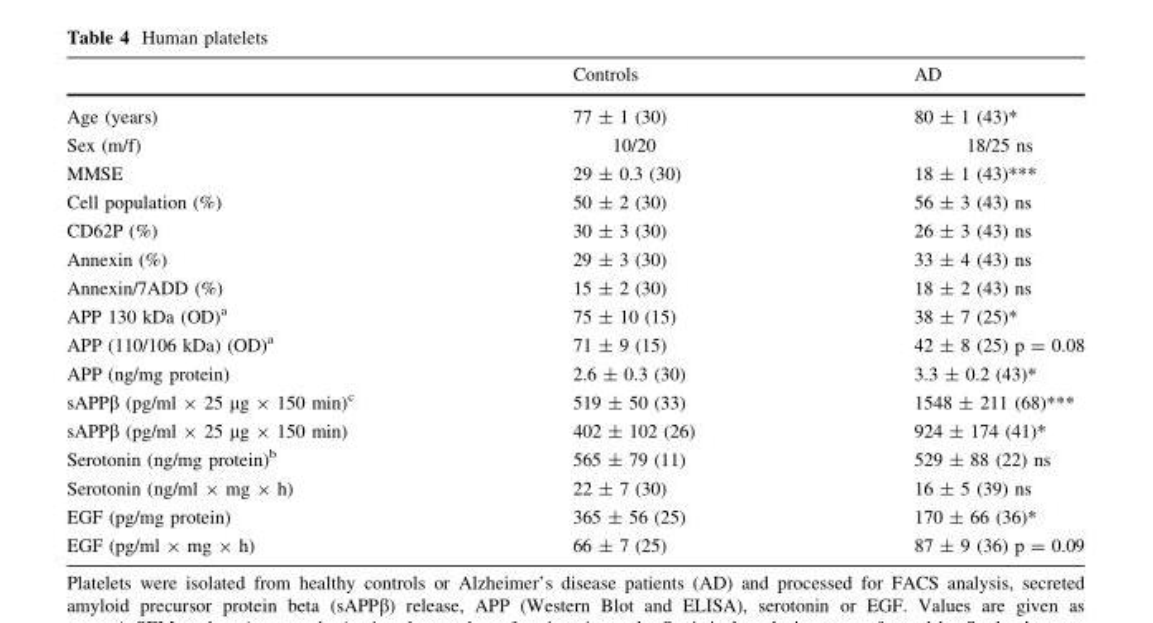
<table><thead><tr><td></td><td>Controls</td><td>AD</td></tr></thead><tbody><tr><td>Age (years)</td><td>77 ± 1 (30)</td><td>80 ± 1 (43)*</td></tr><tr><td>Sex (m/f)</td><td>10/20</td><td>18/25 ns</td></tr><tr><td>MMSE</td><td>29 ± 0.3 (30)</td><td>18 ± 1 (43)***</td></tr><tr><td>Cell population (%)</td><td>50 ± 2 (30)</td><td>56 ± 3 (43) ns</td></tr><tr><td>CD62P (%)</td><td>30 ± 3 (30)</td><td>26 ± 3 (43) ns</td></tr><tr><td>Annexin (%)</td><td>29 ± 3 (30)</td><td>33 ± 4 (43) ns</td></tr><tr><td>Annexin/7ADD (%)</td><td>15 ± 2 (30)</td><td>18 ± 2 (43) ns</td></tr><tr><td>APP 130 kDa (OD)<sup>a</sup></td><td>75 ± 10 (15)</td><td>38 ± 7 (25)*</td></tr><tr><td>APP (110/106 kDa) (OD)<sup>a</sup></td><td>71 ± 9 (15)</td><td>42 ± 8 (25) p = 0.08</td></tr><tr><td>APP (ng/mg protein)</td><td>2.6 ± 0.3 (30)</td><td>3.3 ± 0.2 (43)*</td></tr><tr><td>sAPPβ (pg/ml × 25 µg × 150 min)<sup>c</sup></td><td>519 ± 50 (33)</td><td>1548 ± 211 (68)***</td></tr><tr><td>sAPPβ (pg/ml × 25 µg × 150 min)</td><td>402 ± 102 (26)</td><td>924 ± 174 (41)*</td></tr><tr><td>Serotonin (ng/mg protein)<sup>b</sup></td><td>565 ± 79 (11)</td><td>529 ± 88 (22) ns</td></tr><tr><td>Serotonin (ng/ml × mg × h)</td><td>22 ± 7 (30)</td><td>16 ± 5 (39) ns</td></tr><tr><td>EGF (pg/mg protein)</td><td>365 ± 56 (25)</td><td>170 ± 66 (36)*</td></tr><tr><td>EGF (pg/ml × mg × h)</td><td>66 ± 7 (25)</td><td>87 ± 9 (36) p = 0.09</td></tr></tbody></table>